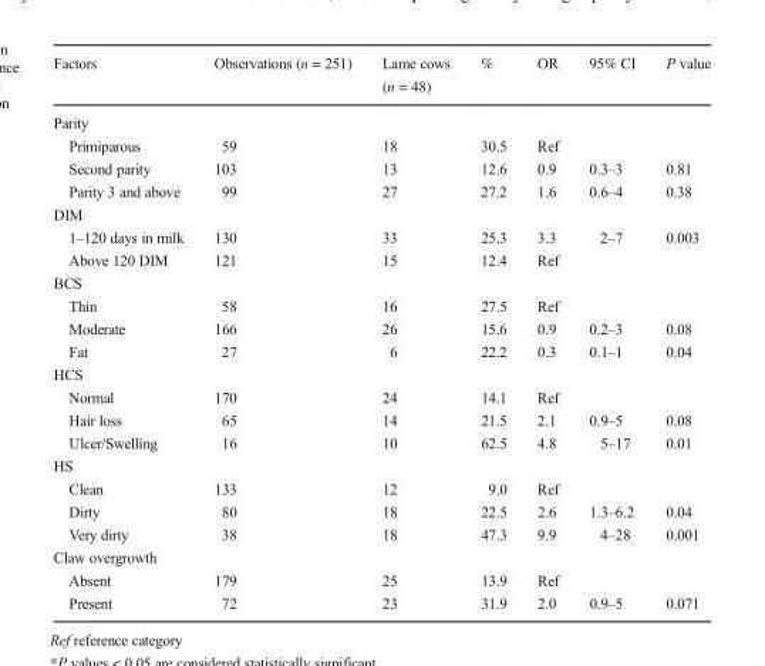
<table><thead><tr><td>Factors</td><td>Observations (n = 251)</td><td>Lame cows (n = 48)</td><td>%</td><td>OR</td><td>95% CI</td><td>P value</td></tr></thead><tbody><tr><td colspan="7">Parity</td></tr><tr><td>Primiparous</td><td>59</td><td>18</td><td>30.5</td><td>Ref</td><td></td><td></td></tr><tr><td>Second parity</td><td>103</td><td>13</td><td>12.6</td><td>0.9</td><td>0.3–3</td><td>0.81</td></tr><tr><td>Parity 3 and above</td><td>99</td><td>27</td><td>27.2</td><td>1.6</td><td>0.6–4</td><td>0.38</td></tr><tr><td colspan="7">DIM</td></tr><tr><td>1–120 days in milk</td><td>130</td><td>33</td><td>25.3</td><td>3.3</td><td>2–7</td><td>0.003</td></tr><tr><td>Above 120 DIM</td><td>121</td><td>15</td><td>12.4</td><td>Ref</td><td></td><td></td></tr><tr><td colspan="7">BCS</td></tr><tr><td>Thin</td><td>58</td><td>16</td><td>27.5</td><td>Ref</td><td></td><td></td></tr><tr><td>Moderate</td><td>166</td><td>26</td><td>15.6</td><td>0.9</td><td>0.2–3</td><td>0.08</td></tr><tr><td>Fat</td><td>27</td><td>6</td><td>22.2</td><td>0.3</td><td>0.1–1</td><td>0.04</td></tr><tr><td colspan="7">HCS</td></tr><tr><td>Normal</td><td>170</td><td>24</td><td>14.1</td><td>Ref</td><td></td><td></td></tr><tr><td>Hair loss</td><td>65</td><td>14</td><td>21.5</td><td>2.1</td><td>0.9–5</td><td>0.08</td></tr><tr><td>Ulcer/Swelling</td><td>16</td><td>10</td><td>62.5</td><td>4.8</td><td>5–17</td><td>0.01</td></tr><tr><td colspan="7">HS</td></tr><tr><td>Clean</td><td>133</td><td>12</td><td>9.0</td><td>Ref</td><td></td><td></td></tr><tr><td>Dirty</td><td>80</td><td>18</td><td>22.5</td><td>2.6</td><td>1.3–6.2</td><td>0.04</td></tr><tr><td>Very dirty</td><td>38</td><td>18</td><td>47.3</td><td>9.9</td><td>4–28</td><td>0.001</td></tr><tr><td colspan="7">Claw overgrowth</td></tr><tr><td>Absent</td><td>179</td><td>25</td><td>13.9</td><td>Ref</td><td></td><td></td></tr><tr><td>Present</td><td>72</td><td>23</td><td>31.9</td><td>2.0</td><td>0.9–5</td><td>0.071</td></tr></tbody></table>